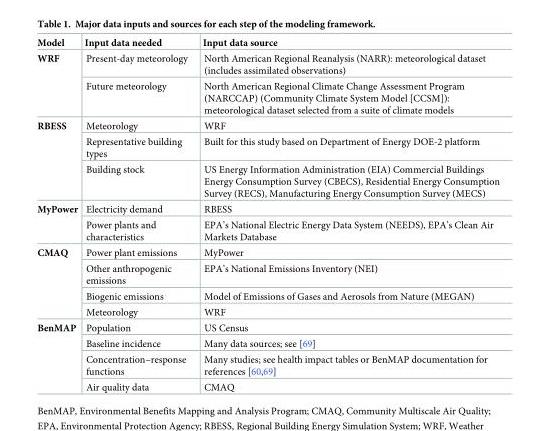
<table><thead><tr><td>Model</td><td>Input data needed</td><td>Input data source</td></tr></thead><tbody><tr><td rowspan="2">WRF</td><td>Present-day meteorology</td><td>North American Regional Reanalysis (NARR): meteorological dataset (includes assimilated observations)</td></tr><tr><td>Future meteorology</td><td>North American Regional Climate Change Assessment Program (NARCCAP) (Community Climate System Model [CCSM]): meteorological dataset selected from a suite of climate models</td></tr><tr><td rowspan="3">RBESS</td><td>Meteorology</td><td>WRF</td></tr><tr><td>Representative building types</td><td>Built for this study based on Department of Energy DOE-2 platform</td></tr><tr><td>Building stock</td><td>US Energy Information Administration (EIA) Commercial Buildings Energy Consumption Survey (CBECS), Residential Energy Consumption Survey (RECS), Manufacturing Energy Consumption Survey (MECS)</td></tr><tr><td rowspan="2">MyPower</td><td>Electricity demand</td><td>RBESS</td></tr><tr><td>Power plants and characteristics</td><td>EPA’s National Electric Energy Data System (NEEDS), EPA’s Clean Air Markets Database</td></tr><tr><td rowspan="4">CMAQ</td><td>Power plant emissions</td><td>MyPower</td></tr><tr><td>Other anthropogenic emissions</td><td>EPA’s National Emissions Inventory (NEI)</td></tr><tr><td>Biogenic emissions</td><td>Model of Emissions of Gases and Aerosols from Nature (MEGAN)</td></tr><tr><td>Meteorology</td><td>WRF</td></tr><tr><td rowspan="4">BenMAP</td><td>Population</td><td>US Census</td></tr><tr><td>Baseline incidence</td><td>Many data sources; see [69]</td></tr><tr><td>Concentration–response functions</td><td>Many studies; see health impact tables or BenMAP documentation for references [60,69]</td></tr><tr><td>Air quality data</td><td>CMAQ</td></tr></tbody></table>